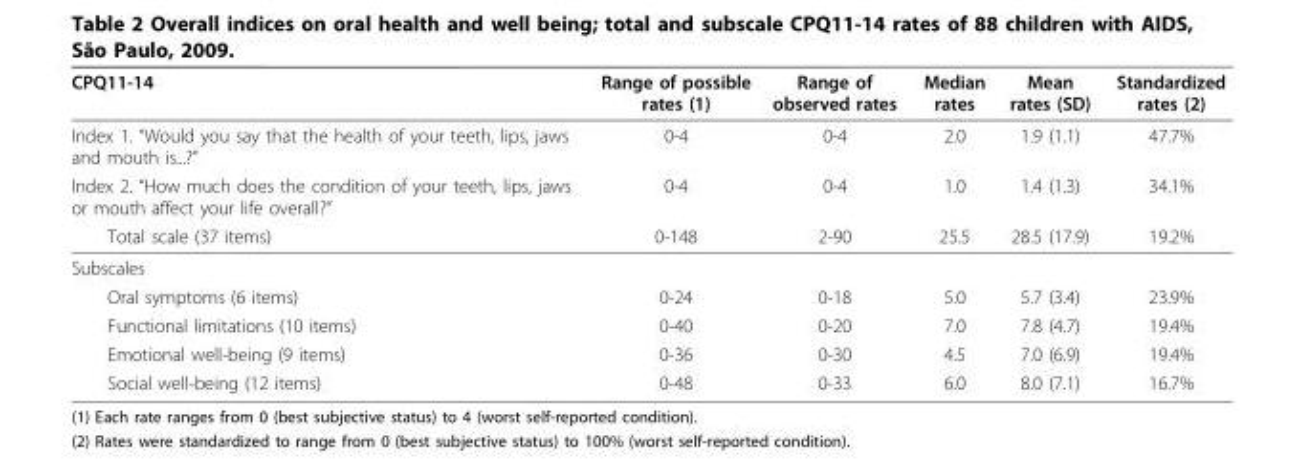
<table><thead><tr><td>CPQ11-14</td><td>Range of possible rates (1)</td><td>Range of observed rates</td><td>Median rates</td><td>Mean rates (SD)</td><td>Standardized rates (2)</td></tr></thead><tbody><tr><td>Index 1. “Would you say that the health of your teeth, lips, jaws and mouth is...?”</td><td>0-4</td><td>0-4</td><td>2.0</td><td>1.9 (1.1)</td><td>47.7%</td></tr><tr><td>Index 2. “How much does the condition of your teeth, lips, jaws or mouth affect your life overall?”</td><td>0-4</td><td>0-4</td><td>1.0</td><td>1.4 (1.3)</td><td>34.1%</td></tr><tr><td>Total scale (37 items)</td><td>0-148</td><td>2-90</td><td>25.5</td><td>28.5 (17.9)</td><td>19.2%</td></tr><tr><td colspan="6">Subscales</td></tr><tr><td>Oral symptoms (6 items)</td><td>0-24</td><td>0-18</td><td>5.0</td><td>5.7 (3.4)</td><td>23.9%</td></tr><tr><td>Functional limitations (10 items)</td><td>0-40</td><td>0-20</td><td>7.0</td><td>7.8 (4.7)</td><td>19.4%</td></tr><tr><td>Emotional well-being (9 items)</td><td>0-36</td><td>0-30</td><td>4.5</td><td>7.0 (6.9)</td><td>19.4%</td></tr><tr><td>Social well-being (12 items)</td><td>0-48</td><td>0-33</td><td>6.0</td><td>8.0 (7.1)</td><td>16.7%</td></tr></tbody></table>